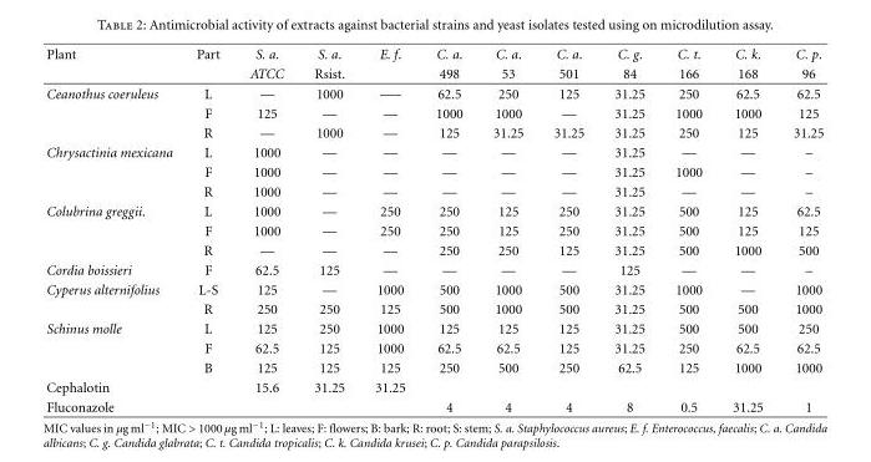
<table><thead><tr><td rowspan="2">Plant</td><td rowspan="2">Part</td><td rowspan="2">S. a. ATCC</td><td rowspan="2">S. a. Rsist.</td><td rowspan="2">E. f.</td><td rowspan="2">C. a. 498</td><td rowspan="2">C. a. 53</td><td rowspan="2">C. a. 501</td><td rowspan="2">C. g. 84</td><td rowspan="2">C. t. 166</td><td rowspan="2">C. k. 168</td><td rowspan="2">C. p. 96</td></tr><tr></tr></thead><tbody><tr><td rowspan="3">Ceanothus coeruleus</td><td>L</td><td>—</td><td>1000</td><td>—–</td><td>62.5</td><td>250</td><td>125</td><td>31.25</td><td>250</td><td>62.5</td><td>62.5</td></tr><tr><td>F</td><td>125</td><td>—</td><td>—</td><td>1000</td><td>1000</td><td>—</td><td>31.25</td><td>1000</td><td>1000</td><td>125</td></tr><tr><td>R</td><td>—</td><td>1000</td><td>—</td><td>125</td><td>31.25</td><td>31.25</td><td>31.25</td><td>250</td><td>125</td><td>31.25</td></tr><tr><td rowspan="3">Chrysactinia mexicana</td><td>L</td><td>1000</td><td>—</td><td>—</td><td>—</td><td>—</td><td>—</td><td>31.25</td><td>—</td><td>—</td><td>–</td></tr><tr><td>F</td><td>1000</td><td>—</td><td>—</td><td>—</td><td>—</td><td>—</td><td>31.25</td><td>1000</td><td>—</td><td>–</td></tr><tr><td>R</td><td>1000</td><td>—</td><td>—</td><td>—</td><td>—</td><td>—</td><td>31.25</td><td>—</td><td>—</td><td>–</td></tr><tr><td rowspan="3">Colubrina greggii.</td><td>L</td><td>1000</td><td>—</td><td>250</td><td>250</td><td>125</td><td>250</td><td>31.25</td><td>500</td><td>125</td><td>62.5</td></tr><tr><td>F</td><td>1000</td><td>—</td><td>250</td><td>250</td><td>125</td><td>250</td><td>31.25</td><td>500</td><td>125</td><td>125</td></tr><tr><td>R</td><td>—</td><td>—</td><td>—</td><td>250</td><td>250</td><td>125</td><td>31.25</td><td>500</td><td>1000</td><td>500</td></tr><tr><td>Cordia boissieri</td><td>F</td><td>62.5</td><td>125</td><td>—</td><td>—</td><td>—</td><td>—</td><td>125</td><td>—</td><td>—</td><td>–</td></tr><tr><td rowspan="2">Cyperus alternifolius</td><td>L-S</td><td>125</td><td>—</td><td>1000</td><td>500</td><td>1000</td><td>500</td><td>31.25</td><td>1000</td><td>—</td><td>1000</td></tr><tr><td>R</td><td>250</td><td>250</td><td>125</td><td>500</td><td>1000</td><td>500</td><td>31.25</td><td>500</td><td>500</td><td>1000</td></tr><tr><td rowspan="3">Schinus molle</td><td>L</td><td>125</td><td>250</td><td>1000</td><td>125</td><td>125</td><td>125</td><td>31.25</td><td>500</td><td>500</td><td>250</td></tr><tr><td>F</td><td>62.5</td><td>125</td><td>1000</td><td>62.5</td><td>62.5</td><td>125</td><td>31.25</td><td>250</td><td>62.5</td><td>62.5</td></tr><tr><td>B</td><td>125</td><td>125</td><td>125</td><td>250</td><td>500</td><td>250</td><td>62.5</td><td>125</td><td>1000</td><td>1000</td></tr><tr><td>Cephalotin</td><td></td><td>15.6</td><td>31.25</td><td>31.25</td><td></td><td></td><td></td><td></td><td></td><td></td><td></td></tr><tr><td>Fluconazole</td><td></td><td></td><td></td><td></td><td>4</td><td>4</td><td>4</td><td>8</td><td>0.5</td><td>31.25</td><td>1</td></tr></tbody></table>